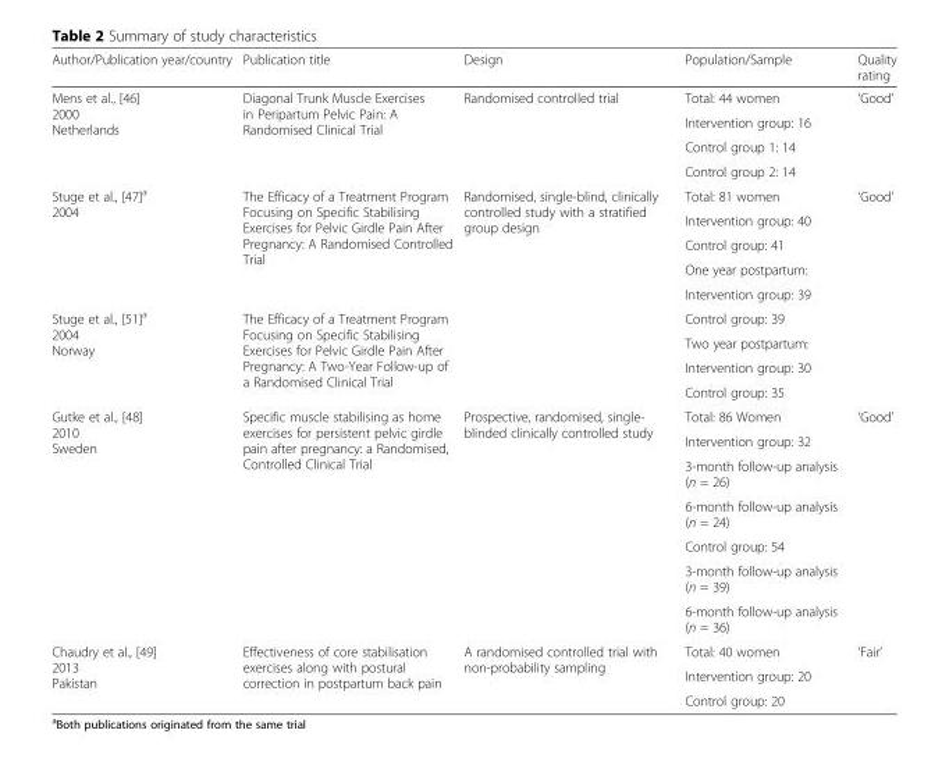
<table><thead><tr><td>Author/Publication year/country</td><td>Publication title</td><td>Design</td><td>Population/Sample</td><td>Quality rating</td></tr></thead><tbody><tr><td rowspan="4">Mens et al., [46] 2000 Netherlands</td><td rowspan="4">Diagonal Trunk Muscle Exercises in Peripartum Pelvic Pain: A Randomised Clinical Trial</td><td rowspan="4">Randomised controlled trial</td><td>Total: 44 women</td><td rowspan="4">‘Good’</td></tr><tr><td>Intervention group: 16</td></tr><tr><td>Control group 1: 14</td></tr><tr><td>Control group 2: 14</td></tr><tr><td rowspan="5">Stuge et al., [47]<sup>a</sup> 2004</td><td rowspan="5">The Efficacy of a Treatment Program Focusing on Specific Stabilising Exercises for Pelvic Girdle Pain After Pregnancy: A Randomised Controlled Trial</td><td rowspan="5">Randomised, single-blind, clinically controlled study with a stratified group design</td><td>Total: 81 women</td><td rowspan="9">‘Good’</td></tr><tr><td>Intervention group: 40</td></tr><tr><td>Control group: 41</td></tr><tr><td>One year postpartum:</td></tr><tr><td>Intervention group: 39</td></tr><tr><td rowspan="4">Stuge et al., [51]<sup>a</sup> 2004 Norway</td><td rowspan="4">The Efficacy of a Treatment Program Focusing on Specific Stabilising Exercises for Pelvic Girdle Pain After Pregnancy: A Two-Year Follow-up of a Randomised Clinical Trial</td><td rowspan="4"></td><td>Control group: 39</td></tr><tr><td>Two year postpartum:</td></tr><tr><td>Intervention group: 30</td></tr><tr><td>Control group: 35</td></tr><tr><td rowspan="7">Gutke et al., [48] 2010 Sweden</td><td rowspan="7">Specific muscle stabilising as home exercises for persistent pelvic girdle pain after pregnancy: a Randomised, Controlled Clinical Trial</td><td rowspan="7">Prospective, randomised, single- blinded clinically controlled study</td><td>Total: 86 Women</td><td rowspan="7">‘Good’</td></tr><tr><td>Intervention group: 32</td></tr><tr><td>3-month follow-up analysis (n = 26)</td></tr><tr><td>6-month follow-up analysis (n = 24)</td></tr><tr><td>Control group: 54</td></tr><tr><td>3-month follow-up analysis (n = 39)</td></tr><tr><td>6-month follow-up analysis (n = 36)</td></tr><tr><td rowspan="3">Chaudry et al., [49] 2013 Pakistan</td><td rowspan="3">Effectiveness of core stabilisation exercises along with postural correction in postpartum back pain</td><td rowspan="3">A randomised controlled trial with non-probability sampling</td><td>Total: 40 women</td><td rowspan="3">‘Fair’</td></tr><tr><td>Intervention group: 20</td></tr><tr><td>Control group: 20</td></tr></tbody></table>